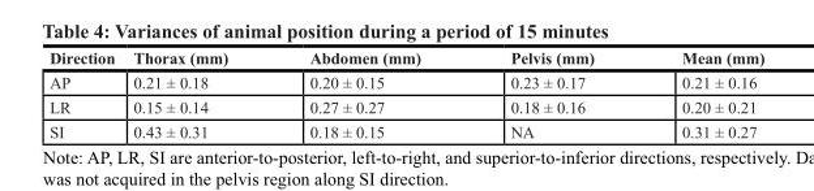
<table><thead><tr><td>Direction</td><td>Thorax (mm)</td><td>Abdomen (mm)</td><td>Pelvis (mm)</td><td>Mean (mm)</td></tr></thead><tbody><tr><td>AP</td><td>0.21 ± 0.18</td><td>0.20 ± 0.15</td><td>0.23 ± 0.17</td><td>0.21 ± 0.16</td></tr><tr><td>LR</td><td>0.15 ± 0.14</td><td>0.27 ± 0.27</td><td>0.18 ± 0.16</td><td>0.20 ± 0.21</td></tr><tr><td>SI</td><td>0.43 ± 0.31</td><td>0.18 ± 0.15</td><td>NA</td><td>0.31 ± 0.27</td></tr></tbody></table>